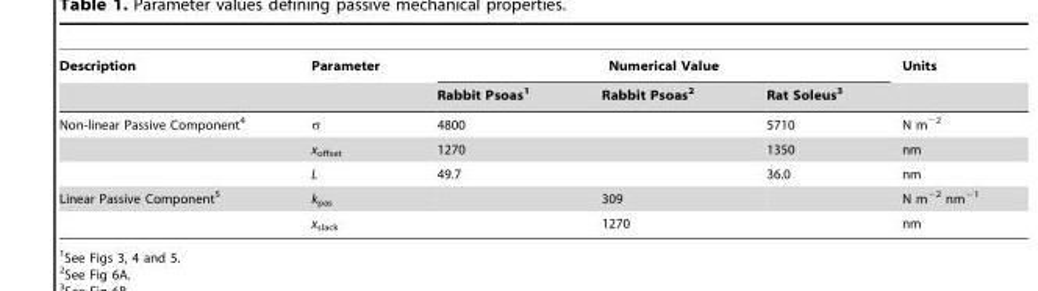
<table><thead><tr><td rowspan="2">Description</td><td rowspan="2">Parameter</td><td colspan="3">Numerical Value</td><td rowspan="2">Units</td></tr><tr><td>Rabbit Psoas<sup>1</sup></td><td>Rabbit Psoas<sup>2</sup></td><td>Rat Soleus<sup>3</sup></td></tr></thead><tbody><tr><td rowspan="3">Non-linear Passive Component<sup>4</sup></td><td>σ</td><td>4800</td><td></td><td>5710</td><td>N m<sup>−2</sup></td></tr><tr><td>x<sub>offset</sub></td><td>1270</td><td></td><td>1350</td><td>nm</td></tr><tr><td>L</td><td>49.7</td><td></td><td>36.0</td><td>nm</td></tr><tr><td rowspan="2">Linear Passive Component<sup>5</sup></td><td>k<sub>pas</sub></td><td></td><td>309</td><td></td><td>N m<sup>−2</sup> nm<sup>−1</sup></td></tr><tr><td>x<sub>slack</sub></td><td></td><td>1270</td><td></td><td>nm</td></tr></tbody></table>